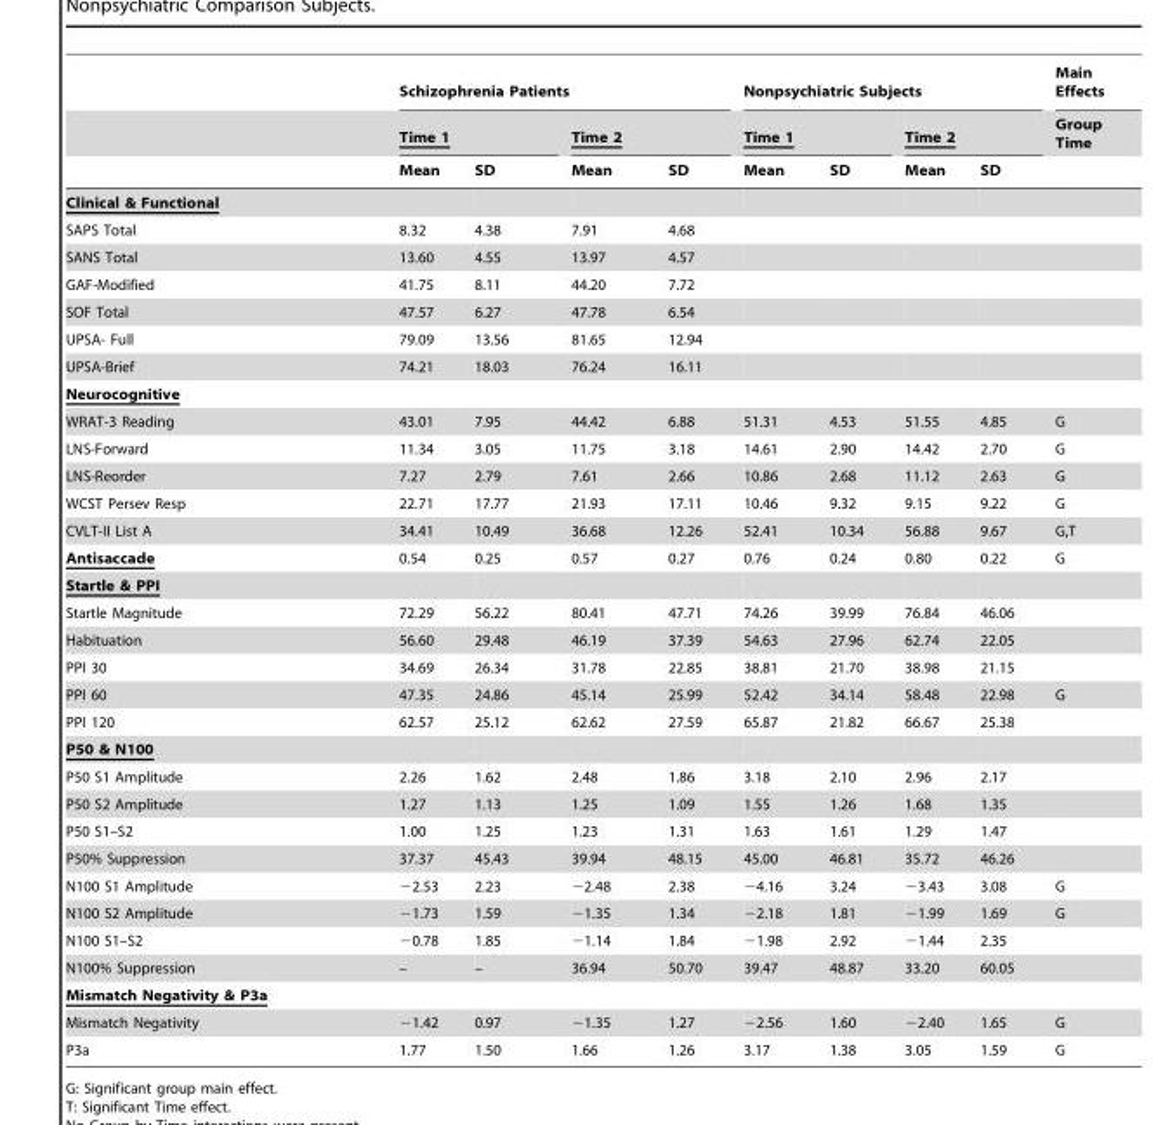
<table><thead><tr><td rowspan="3"></td><td colspan="4">Schizophrenia Patients</td><td colspan="4">Nonpsychiatric Subjects</td><td rowspan="3">Main Effects Group Time</td></tr><tr><td colspan="2">Time 1</td><td colspan="2">Time 2</td><td colspan="2">Time 1</td><td colspan="2">Time 2</td></tr><tr><td>Mean</td><td>SD</td><td>Mean</td><td>SD</td><td>Mean</td><td>SD</td><td>Mean</td><td>SD</td></tr></thead><tbody><tr><td colspan="10">Clinical &amp; Functional</td></tr><tr><td>SAPS Total</td><td>8.32</td><td>4.38</td><td>7.91</td><td>4.68</td><td></td><td></td><td></td><td></td><td></td></tr><tr><td>SANS Total</td><td>13.60</td><td>4.55</td><td>13.97</td><td>4.57</td><td></td><td></td><td></td><td></td><td></td></tr><tr><td>GAF-Modified</td><td>41.75</td><td>8.11</td><td>44.20</td><td>7.72</td><td></td><td></td><td></td><td></td><td></td></tr><tr><td>SOF Total</td><td>47.57</td><td>6.27</td><td>47.78</td><td>6.54</td><td></td><td></td><td></td><td></td><td></td></tr><tr><td>UPSA- Full</td><td>79.09</td><td>13.56</td><td>81.65</td><td>12.94</td><td></td><td></td><td></td><td></td><td></td></tr><tr><td>UPSA-Brief</td><td>74.21</td><td>18.03</td><td>76.24</td><td>16.11</td><td></td><td></td><td></td><td></td><td></td></tr><tr><td colspan="10">Neurocognitive</td></tr><tr><td>WRAT-3 Reading</td><td>43.01</td><td>7.95</td><td>44.42</td><td>6.88</td><td>51.31</td><td>4.53</td><td>51.55</td><td>4.85</td><td>G</td></tr><tr><td>LNS-Forward</td><td>11.34</td><td>3.05</td><td>11.75</td><td>3.18</td><td>14.61</td><td>2.90</td><td>14.42</td><td>2.70</td><td>G</td></tr><tr><td>LNS-Reorder</td><td>7.27</td><td>2.79</td><td>7.61</td><td>2.66</td><td>10.86</td><td>2.68</td><td>11.12</td><td>2.63</td><td>G</td></tr><tr><td>WCST Persev Resp</td><td>22.71</td><td>17.77</td><td>21.93</td><td>17.11</td><td>10.46</td><td>9.32</td><td>9.15</td><td>9.22</td><td>G</td></tr><tr><td>CVLT-II List A</td><td>34.41</td><td>10.49</td><td>36.68</td><td>12.26</td><td>52.41</td><td>10.34</td><td>56.88</td><td>9.67</td><td>G,T</td></tr><tr><td>Antisaccade</td><td>0.54</td><td>0.25</td><td>0.57</td><td>0.27</td><td>0.76</td><td>0.24</td><td>0.80</td><td>0.22</td><td>G</td></tr><tr><td colspan="10">Startle &amp; PPI</td></tr><tr><td>Startle Magnitude</td><td>72.29</td><td>56.22</td><td>80.41</td><td>47.71</td><td>74.26</td><td>39.99</td><td>76.84</td><td>46.06</td><td></td></tr><tr><td>Habituation</td><td>56.60</td><td>29.48</td><td>46.19</td><td>37.39</td><td>54.63</td><td>27.96</td><td>62.74</td><td>22.05</td><td></td></tr><tr><td>PPI 30</td><td>34.69</td><td>26.34</td><td>31.78</td><td>22.85</td><td>38.81</td><td>21.70</td><td>38.98</td><td>21.15</td><td></td></tr><tr><td>PPI 60</td><td>47.35</td><td>24.86</td><td>45.14</td><td>25.99</td><td>52.42</td><td>34.14</td><td>58.48</td><td>22.98</td><td>G</td></tr><tr><td>PPI 120</td><td>62.57</td><td>25.12</td><td>62.62</td><td>27.59</td><td>65.87</td><td>21.82</td><td>66.67</td><td>25.38</td><td></td></tr><tr><td colspan="10">P50 &amp; N100</td></tr><tr><td>P50 S1 Amplitude</td><td>2.26</td><td>1.62</td><td>2.48</td><td>1.86</td><td>3.18</td><td>2.10</td><td>2.96</td><td>2.17</td><td></td></tr><tr><td>P50 S2 Amplitude</td><td>1.27</td><td>1.13</td><td>1.25</td><td>1.09</td><td>1.55</td><td>1.26</td><td>1.68</td><td>1.35</td><td></td></tr><tr><td>P50 S1–S2</td><td>1.00</td><td>1.25</td><td>1.23</td><td>1.31</td><td>1.63</td><td>1.61</td><td>1.29</td><td>1.47</td><td></td></tr><tr><td>P50% Suppression</td><td>37.37</td><td>45.43</td><td>39.94</td><td>48.15</td><td>45.00</td><td>46.81</td><td>35.72</td><td>46.26</td><td></td></tr><tr><td>N100 S1 Amplitude</td><td>−2.53</td><td>2.23</td><td>−2.48</td><td>2.38</td><td>−4.16</td><td>3.24</td><td>−3.43</td><td>3.08</td><td>G</td></tr><tr><td>N100 S2 Amplitude</td><td>−1.73</td><td>1.59</td><td>−1.35</td><td>1.34</td><td>−2.18</td><td>1.81</td><td>−1.99</td><td>1.69</td><td>G</td></tr><tr><td>N100 S1–S2</td><td>−0.78</td><td>1.85</td><td>−1.14</td><td>1.84</td><td>−1.98</td><td>2.92</td><td>−1.44</td><td>2.35</td><td></td></tr><tr><td>N100% Suppression</td><td>–</td><td>–</td><td>36.94</td><td>50.70</td><td>39.47</td><td>48.87</td><td>33.20</td><td>60.05</td><td></td></tr><tr><td colspan="10">Mismatch Negativity &amp; P3a</td></tr><tr><td>Mismatch Negativity</td><td>−1.42</td><td>0.97</td><td>−1.35</td><td>1.27</td><td>−2.56</td><td>1.60</td><td>−2.40</td><td>1.65</td><td>G</td></tr><tr><td>P3a</td><td>1.77</td><td>1.50</td><td>1.66</td><td>1.26</td><td>3.17</td><td>1.38</td><td>3.05</td><td>1.59</td><td>G</td></tr></tbody></table>